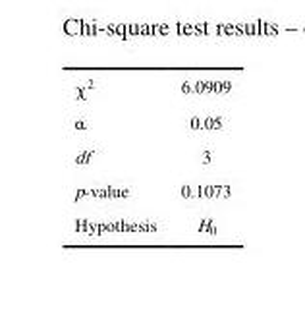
<table><tbody><tr><td>χ<sup>2</sup></td><td>6.0909</td></tr><tr><td>α</td><td>0.05</td></tr><tr><td>df</td><td>3</td></tr><tr><td>p-value</td><td>0.1073</td></tr><tr><td>Hypothesis</td><td>H<sub>0</sub></td></tr></tbody></table>